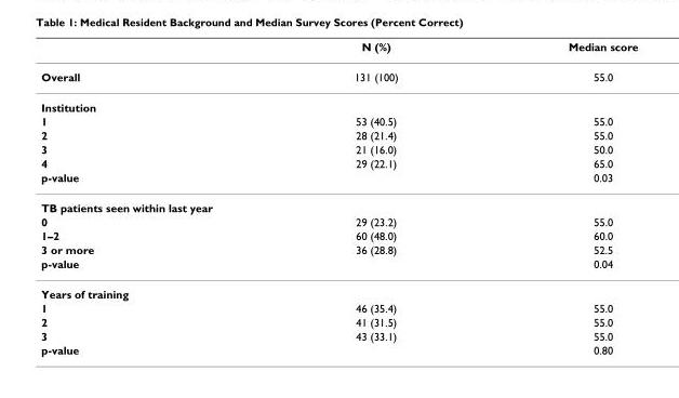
<table><thead><tr><td></td><td>N (%)</td><td>Median score</td></tr></thead><tbody><tr><td>Overall</td><td>131 (100)</td><td>55.0</td></tr><tr><td colspan="3">Institution</td></tr><tr><td>1</td><td>53 (40.5)</td><td>55.0</td></tr><tr><td>2</td><td>28 (21.4)</td><td>55.0</td></tr><tr><td>3</td><td>21 (16.0)</td><td>50.0</td></tr><tr><td>4</td><td>29 (22.1)</td><td>65.0</td></tr><tr><td>p-value</td><td></td><td>0.03</td></tr><tr><td colspan="3">TB patients seen within last year</td></tr><tr><td>0</td><td>29 (23.2)</td><td>55.0</td></tr><tr><td>1–2</td><td>60 (48.0)</td><td>60.0</td></tr><tr><td>3 or more</td><td>36 (28.8)</td><td>52.5</td></tr><tr><td>p-value</td><td></td><td>0.04</td></tr><tr><td colspan="3">Years of training</td></tr><tr><td>1</td><td>46 (35.4)</td><td>55.0</td></tr><tr><td>2</td><td>41 (31.5)</td><td>55.0</td></tr><tr><td>3</td><td>43 (33.1)</td><td>55.0</td></tr><tr><td>p-value</td><td></td><td>0.80</td></tr></tbody></table>